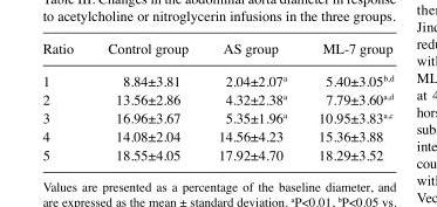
<table><thead><tr><td>Ratio</td><td>Control group</td><td>AS group</td><td>ML-7 group</td></tr></thead><tbody><tr><td>1</td><td>8.84±3.81</td><td>2.04±2.07<sup>a</sup></td><td>5.40±3.05<sup>b</sup>,<sup>d</sup></td></tr><tr><td>2</td><td>13.56±2.86</td><td>4.32±2.38<sup>a</sup></td><td>7.79±3.60<sup>a</sup>,<sup>d</sup></td></tr><tr><td>3</td><td>16.96±3.67</td><td>5.35±1.96<sup>a</sup></td><td>10.95±3.83a,c</td></tr><tr><td>4</td><td>14.08±2.04</td><td>14.56±4.23</td><td>15.36±3.88</td></tr><tr><td>5</td><td>18.55±4.05</td><td>17.92±4.70</td><td>18.29±3.52</td></tr></tbody></table>